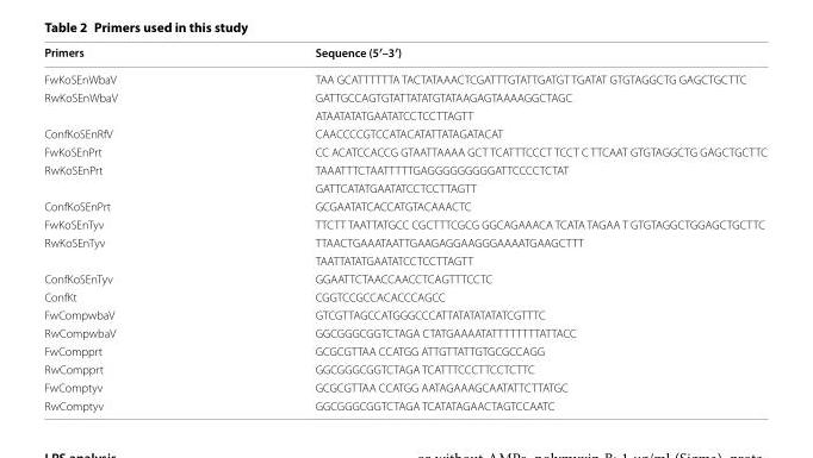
<table><thead><tr><td>Primers</td><td>Sequence (5′–3′)</td></tr></thead><tbody><tr><td>FwKoSEnWbaV</td><td>TAA GCATTTTTTA TACTATAAACTCGATTTGTATTGATGT TGATAT GTGTAGGCTG GAGCTGCTTC</td></tr><tr><td rowspan="2">RwKoSEnWbaV</td><td>GATTGCCAGTGTATTATATGTATAAGAGTAAAAGGCTAGC</td></tr><tr><td>ATAATATATGAATATCCTCCTTAGTT</td></tr><tr><td>ConfKoSEnRfV</td><td>CAACCCCGTCCATACATATTATAGATACAT</td></tr><tr><td>FwKoSEnPrt</td><td>CC ACATCCACCG GTAATTAAAA GCT TCATTTCCCT TCCT C TTCAAT GTGTAGGCTG GAGCTGCTTC</td></tr><tr><td rowspan="2">RwKoSEnPrt</td><td>TAAATTTCTAATTTTTGAGGGGGGGGGATTCCCCTCTAT</td></tr><tr><td>GATTCATATGAATATCCTCCTTAGTT</td></tr><tr><td>ConfKoSEnPrt</td><td>GCGAATATCACCATGTACAAACTC</td></tr><tr><td>FwKoSEnTyv</td><td>TTCTT TAATTATGCC CGCTTTCGCG GGCAGAAACA TCATA TAGAA T GTGTAGGCTGGAGCTGCTTC</td></tr><tr><td rowspan="2">RwKoSEnTyv</td><td>TTAACTGAAATAATTGAAGAGGAAGGGAAAATGAAGCTTT</td></tr><tr><td>TAATTATATGAATATCCTCCTTAGTT</td></tr><tr><td>ConfKoSEnTyv</td><td>GGAATTCTAACCAACCTCAGTTTCCTC</td></tr><tr><td>ConfKt</td><td>CGGTCCGCCACACCCAGCC</td></tr><tr><td>FwCompwbaV</td><td>GTCGTTAGCCATGGGCCCATTATATATATATCGTTTC</td></tr><tr><td>RwCompwbaV</td><td>GGCGGGCGGTCTAGA CTATGAAAATATTTTTTTTATTACC</td></tr><tr><td>FwCompprt</td><td>GCGCGTTAA CCATGG ATTGTTATTGTGCGCCAGG</td></tr><tr><td>RwCompprt</td><td>GGCGGGCGGTCTAGA TCATTTCCCTTCCTCTTC</td></tr><tr><td>FwComptyv</td><td>GCGCGTTAA CCATGG AATAGAAAGCAATATTCTTATGC</td></tr><tr><td>RwComptyv</td><td>GGCGGGCGGTCTAGA TCATATAGAACTAGTCCAATC</td></tr></tbody></table>